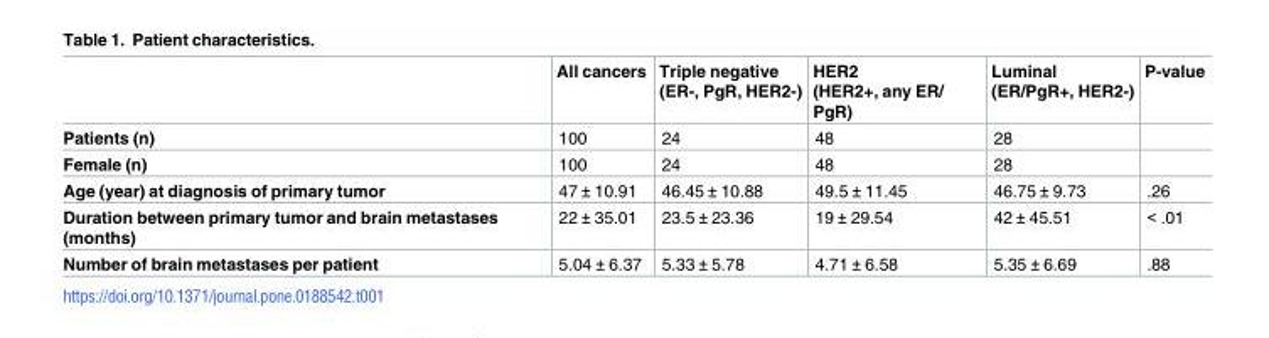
<table><thead><tr><td></td><td>All cancers</td><td>Triple negative (ER-, PgR, HER2-)</td><td>HER2 (HER2+, any ER/ PgR)</td><td>Luminal (ER/PgR+, HER2-)</td><td>P-value</td></tr></thead><tbody><tr><td>Patients (n)</td><td>100</td><td>24</td><td>48</td><td>28</td><td></td></tr><tr><td>Female (n)</td><td>100</td><td>24</td><td>48</td><td>28</td><td></td></tr><tr><td>Age (year) at diagnosis of primary tumor</td><td>47 ± 10.91</td><td>46.45 ± 10.88</td><td>49.5 ± 11.45</td><td>46.75 ± 9.73</td><td>.26</td></tr><tr><td>Duration between primary tumor and brain metastases (months)</td><td>22 ± 35.01</td><td>23.5 ± 23.36</td><td>19 ± 29.54</td><td>42 ± 45.51</td><td>&lt; .01</td></tr><tr><td>Number of brain metastases per patient</td><td>5.04 ± 6.37</td><td>5.33 ± 5.78</td><td>4.71 ± 6.58</td><td>5.35 ± 6.69</td><td>.88</td></tr></tbody></table>